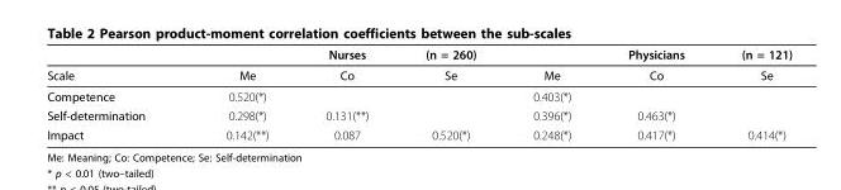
<table><thead><tr><td></td><td></td><td>Nurses</td><td>(n = 260)</td><td></td><td>Physicians</td><td>(n = 121)</td></tr></thead><tbody><tr><td>Scale</td><td>Me</td><td>Co</td><td>Se</td><td>Me</td><td>Co</td><td>Se</td></tr><tr><td>Competence</td><td>0.520(*)</td><td></td><td></td><td>0.403(*)</td><td></td><td></td></tr><tr><td>Self-determination</td><td>0.298(*)</td><td>0.131(**)</td><td></td><td>0.396(*)</td><td>0.463(*)</td><td></td></tr><tr><td>Impact</td><td>0.142(**)</td><td>0.087</td><td>0.520(*)</td><td>0.248(*)</td><td>0.417(*)</td><td>0.414(*)</td></tr></tbody></table>